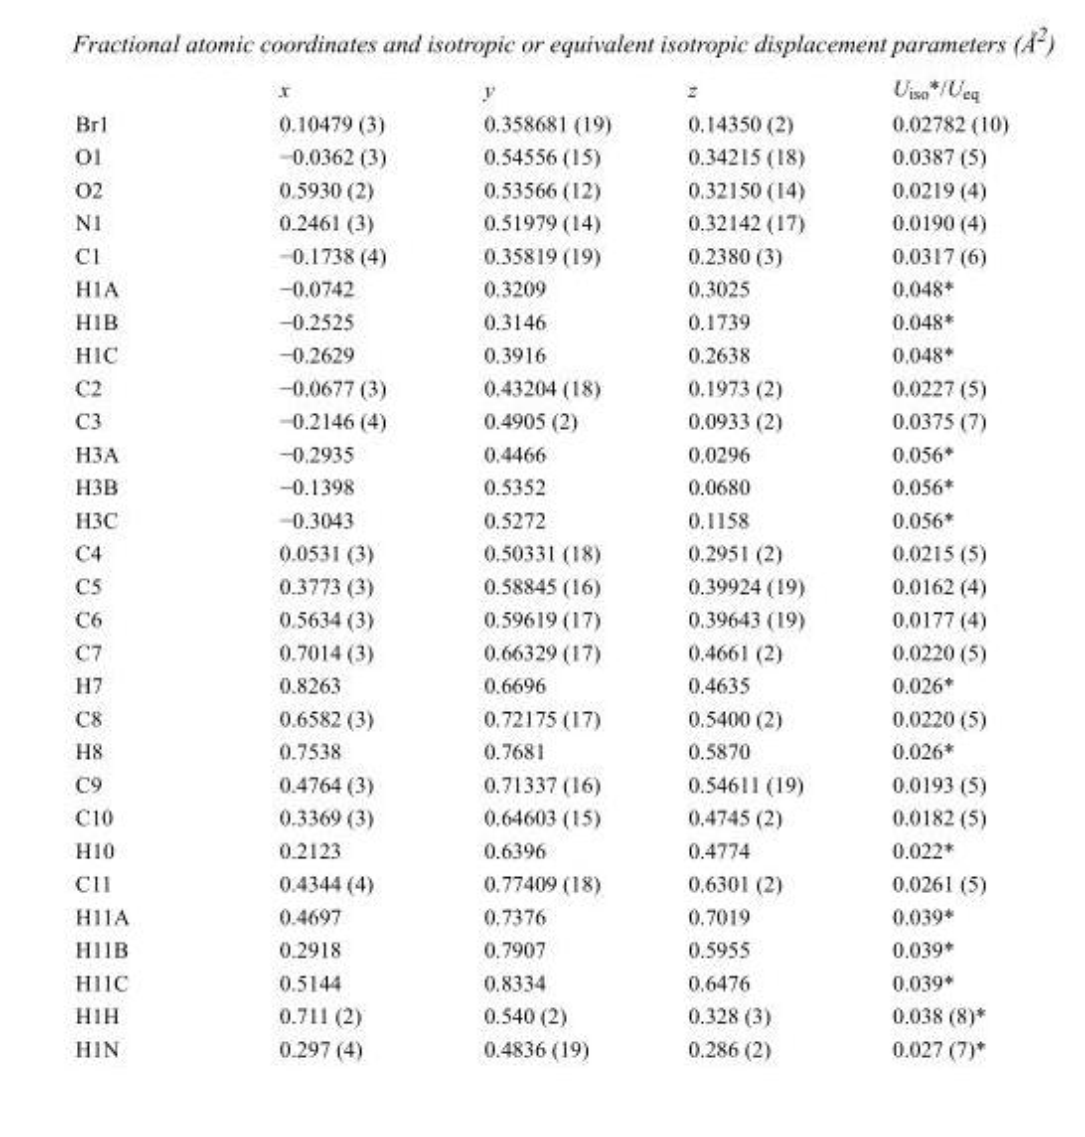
<table><thead><tr><td></td><td>x</td><td>y</td><td>z</td><td>U<sub>iso</sub>*/U<sub>eq</sub></td></tr></thead><tbody><tr><td>Br1</td><td>0.10479 (3)</td><td>0.358681 (19)</td><td>0.14350 (2)</td><td>0.02782 (10)</td></tr><tr><td>O1</td><td>−0.0362 (3)</td><td>0.54556 (15)</td><td>0.34215 (18)</td><td>0.0387 (5)</td></tr><tr><td>O2</td><td>0.5930 (2)</td><td>0.53566 (12)</td><td>0.32150 (14)</td><td>0.0219 (4)</td></tr><tr><td>N1</td><td>0.2461 (3)</td><td>0.51979 (14)</td><td>0.32142 (17)</td><td>0.0190 (4)</td></tr><tr><td>C1</td><td>−0.1738 (4)</td><td>0.35819 (19)</td><td>0.2380 (3)</td><td>0.0317 (6)</td></tr><tr><td>H1A</td><td>−0.0742</td><td>0.3209</td><td>0.3025</td><td>0.048*</td></tr><tr><td>H1B</td><td>−0.2525</td><td>0.3146</td><td>0.1739</td><td>0.048*</td></tr><tr><td>H1C</td><td>−0.2629</td><td>0.3916</td><td>0.2638</td><td>0.048*</td></tr><tr><td>C2</td><td>−0.0677 (3)</td><td>0.43204 (18)</td><td>0.1973 (2)</td><td>0.0227 (5)</td></tr><tr><td>C3</td><td>−0.2146 (4)</td><td>0.4905 (2)</td><td>0.0933 (2)</td><td>0.0375 (7)</td></tr><tr><td>H3A</td><td>−0.2935</td><td>0.4466</td><td>0.0296</td><td>0.056*</td></tr><tr><td>H3B</td><td>−0.1398</td><td>0.5352</td><td>0.0680</td><td>0.056*</td></tr><tr><td>H3C</td><td>−0.3043</td><td>0.5272</td><td>0.1158</td><td>0.056*</td></tr><tr><td>C4</td><td>0.0531 (3)</td><td>0.50331 (18)</td><td>0.2951 (2)</td><td>0.0215 (5)</td></tr><tr><td>C5</td><td>0.3773 (3)</td><td>0.58845 (16)</td><td>0.39924 (19)</td><td>0.0162 (4)</td></tr><tr><td>C6</td><td>0.5634 (3)</td><td>0.59619 (17)</td><td>0.39643 (19)</td><td>0.0177 (4)</td></tr><tr><td>C7</td><td>0.7014 (3)</td><td>0.66329 (17)</td><td>0.4661 (2)</td><td>0.0220 (5)</td></tr><tr><td>H7</td><td>0.8263</td><td>0.6696</td><td>0.4635</td><td>0.026*</td></tr><tr><td>C8</td><td>0.6582 (3)</td><td>0.72175 (17)</td><td>0.5400 (2)</td><td>0.0220 (5)</td></tr><tr><td>H8</td><td>0.7538</td><td>0.7681</td><td>0.5870</td><td>0.026*</td></tr><tr><td>C9</td><td>0.4764 (3)</td><td>0.71337 (16)</td><td>0.54611 (19)</td><td>0.0193 (5)</td></tr><tr><td>C10</td><td>0.3369 (3)</td><td>0.64603 (15)</td><td>0.4745 (2)</td><td>0.0182 (5)</td></tr><tr><td>H10</td><td>0.2123</td><td>0.6396</td><td>0.4774</td><td>0.022*</td></tr><tr><td>C11</td><td>0.4344 (4)</td><td>0.77409 (18)</td><td>0.6301 (2)</td><td>0.0261 (5)</td></tr><tr><td>H11A</td><td>0.4697</td><td>0.7376</td><td>0.7019</td><td>0.039*</td></tr><tr><td>H11B</td><td>0.2918</td><td>0.7907</td><td>0.5955</td><td>0.039*</td></tr><tr><td>H11C</td><td>0.5144</td><td>0.8334</td><td>0.6476</td><td>0.039*</td></tr><tr><td>H1H</td><td>0.711 (2)</td><td>0.540 (2)</td><td>0.328 (3)</td><td>0.038 (8)*</td></tr><tr><td>H1N</td><td>0.297 (4)</td><td>0.4836 (19)</td><td>0.286 (2)</td><td>0.027 (7)*</td></tr></tbody></table>